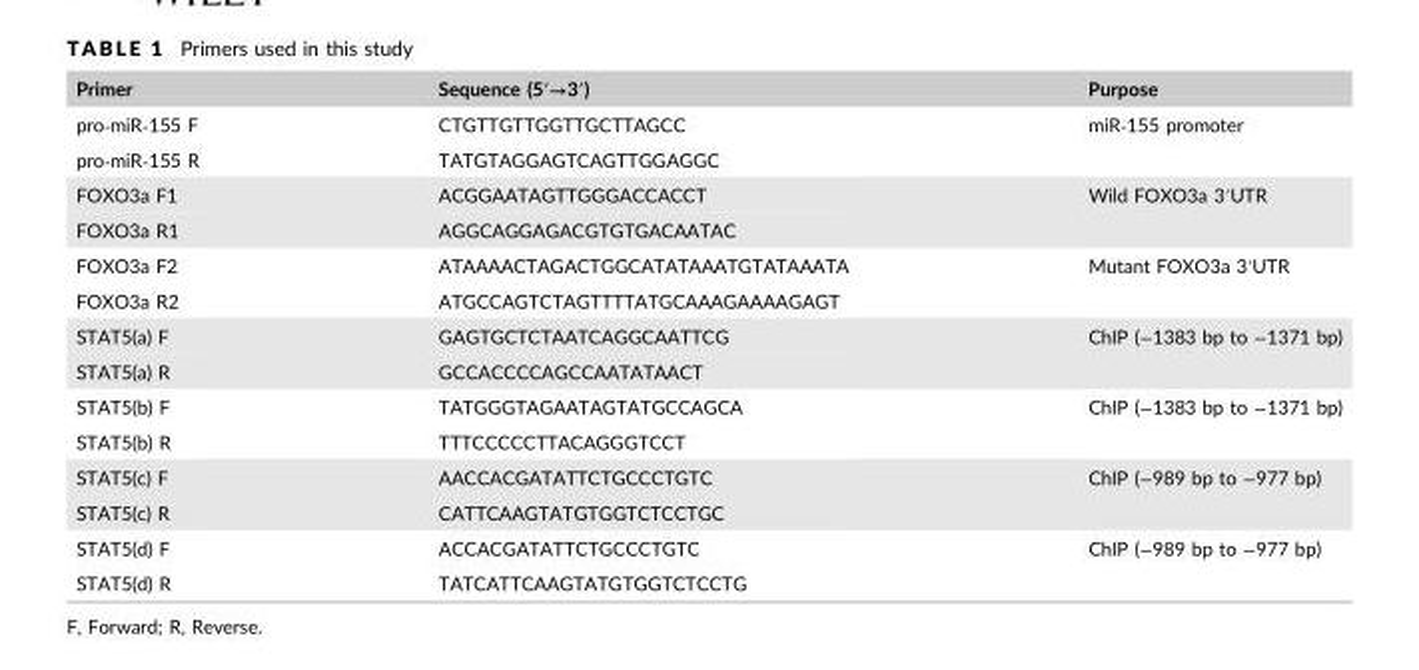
<table><thead><tr><td>Primer</td><td>Sequence (5′→3′)</td><td>Purpose</td></tr></thead><tbody><tr><td>pro‐miR‐155 F</td><td>CTGTTGTTGGTTGCTTAGCC</td><td rowspan="2">miR‐155 promoter</td></tr><tr><td>pro‐miR‐155 R</td><td>TATGTAGGAGTCAGTTGGAGGC</td></tr><tr><td>FOXO3a F1</td><td>ACGGAATAGTTGGGACCACCT</td><td rowspan="2">Wild FOXO3a 3′UTR</td></tr><tr><td>FOXO3a R1</td><td>AGGCAGGAGACGTGTGACAATAC</td></tr><tr><td>FOXO3a F2</td><td>ATAAAACTAGACTGGCATATAAATGTATAAATA</td><td rowspan="2">Mutant FOXO3a 3′UTR</td></tr><tr><td>FOXO3a R2</td><td>ATGCCAGTCTAGTTTTATGCAAAGAAAAGAGT</td></tr><tr><td>STAT5(a) F</td><td>GAGTGCTCTAATCAGGCAATTCG</td><td rowspan="2">ChIP (−1383 bp to −1371 bp)</td></tr><tr><td>STAT5(a) R</td><td>GCCACCCCAGCCAATATAACT</td></tr><tr><td>STAT5(b) F</td><td>TATGGGTAGAATAGTATGCCAGCA</td><td rowspan="2">ChIP (−1383 bp to −1371 bp)</td></tr><tr><td>STAT5(b) R</td><td>TTTCCCCCTTACAGGGTCCT</td></tr><tr><td>STAT5(c) F</td><td>AACCACGATATTCTGCCCTGTC</td><td rowspan="2">ChIP (−989 bp to −977 bp)</td></tr><tr><td>STAT5(c) R</td><td>CATTCAAGTATGTGGTCTCCTGC</td></tr><tr><td>STAT5(d) F</td><td>ACCACGATATTCTGCCCTGTC</td><td rowspan="2">ChIP (−989 bp to −977 bp)</td></tr><tr><td>STAT5(d) R</td><td>TATCATTCAAGTATGTGGTCTCCTG</td></tr></tbody></table>